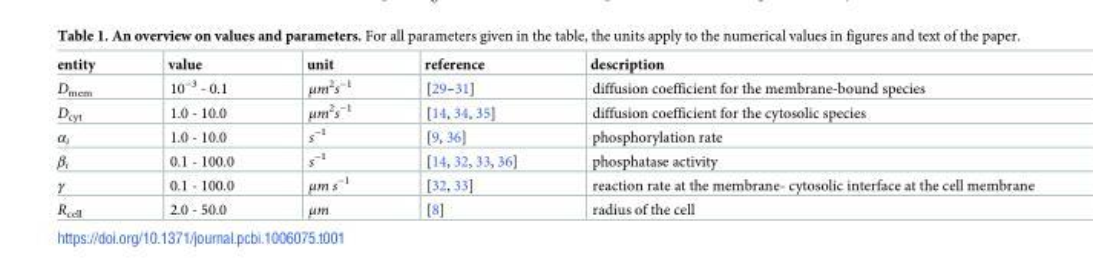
<table><thead><tr><td>entity</td><td>value</td><td>unit</td><td>reference</td><td>description</td></tr></thead><tbody><tr><td>D<sub>mem</sub></td><td>10<sup>−3</sup> - 0.1</td><td>μm<sup>2</sup>s<sup>−1</sup></td><td>[29–31]</td><td>diffusion coefficient for the membrane-bound species</td></tr><tr><td>D<sub>cyt</sub></td><td>1.0 - 10.0</td><td>μm<sup>2</sup>s<sup>−1</sup></td><td>[14, 34, 35]</td><td>diffusion coefficient for the cytosolic species</td></tr><tr><td>α<sub>i</sub></td><td>1.0 - 10.0</td><td>s<sup>−1</sup></td><td>[9, 36]</td><td>phosphorylation rate</td></tr><tr><td>β<sub>i</sub></td><td>0.1 - 100.0</td><td>s<sup>−1</sup></td><td>[14, 32, 33, 36]</td><td>phosphatase activity</td></tr><tr><td>γ</td><td>0.1 - 100.0</td><td>μm s<sup>−1</sup></td><td>[32, 33]</td><td>reaction rate at the membrane- cytosolic interface at the cell membrane</td></tr><tr><td>R<sub>cell</sub></td><td>2.0 - 50.0</td><td>μm</td><td>[8]</td><td>radius of the cell</td></tr></tbody></table>